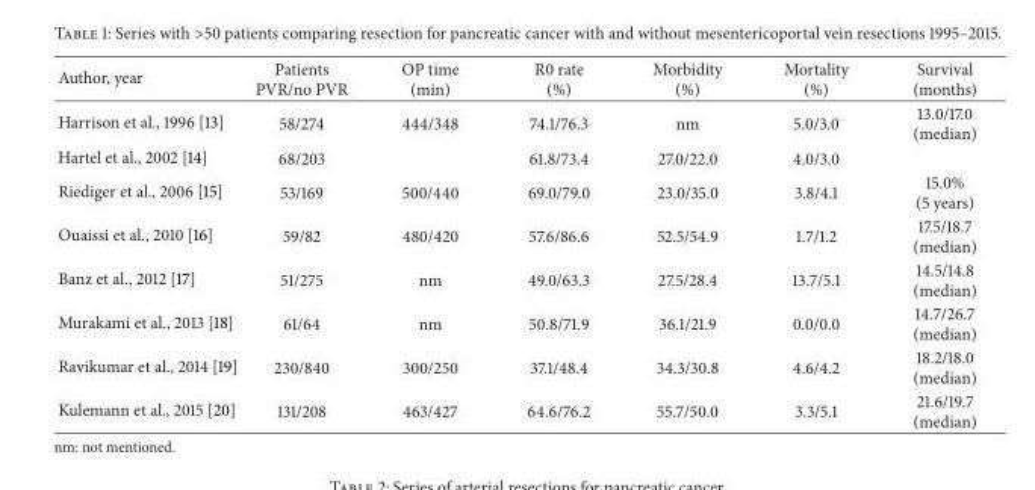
<table><thead><tr><td>Author, year</td><td>Patients PVR/no PVR</td><td>OP time (min)</td><td>R0 rate (%)</td><td>Morbidity (%)</td><td>Mortality (%)</td><td>Survival (months)</td></tr></thead><tbody><tr><td>Harrison et al., 1996 [13]</td><td>58/274</td><td>444/348</td><td>74.1/76.3</td><td>nm</td><td>5.0/3.0</td><td>13.0/17.0 (median)</td></tr><tr><td>Hartel et al., 2002 [14]</td><td>68/203</td><td></td><td>61.8/73.4</td><td>27.0/22.0</td><td>4.0/3.0</td><td></td></tr><tr><td>Riediger et al., 2006 [15]</td><td>53/169</td><td>500/440</td><td>69.0/79.0</td><td>23.0/35.0</td><td>3.8/4.1</td><td>15.0% (5 years)</td></tr><tr><td>Ouaissi et al., 2010 [16]</td><td>59/82</td><td>480/420</td><td>57.6/86.6</td><td>52.5/54.9</td><td>1.7/1.2</td><td>17.5/18.7 (median)</td></tr><tr><td>Banz et al., 2012 [17]</td><td>51/275</td><td>nm</td><td>49.0/63.3</td><td>27.5/28.4</td><td>13.7/5.1</td><td>14.5/14.8 (median)</td></tr><tr><td>Murakami et al., 2013 [18]</td><td>61/64</td><td>nm</td><td>50.8/71.9</td><td>36.1/21.9</td><td>0.0/0.0</td><td>14.7/26.7 (median)</td></tr><tr><td>Ravikumar et al., 2014 [19]</td><td>230/840</td><td>300/250</td><td>37.1/48.4</td><td>34.3/30.8</td><td>4.6/4.2</td><td>18.2/18.0 (median)</td></tr><tr><td>Kulemann et al., 2015 [20]</td><td>131/208</td><td>463/427</td><td>64.6/76.2</td><td>55.7/50.0</td><td>3.3/5.1</td><td>21.6/19.7 (median)</td></tr></tbody></table>